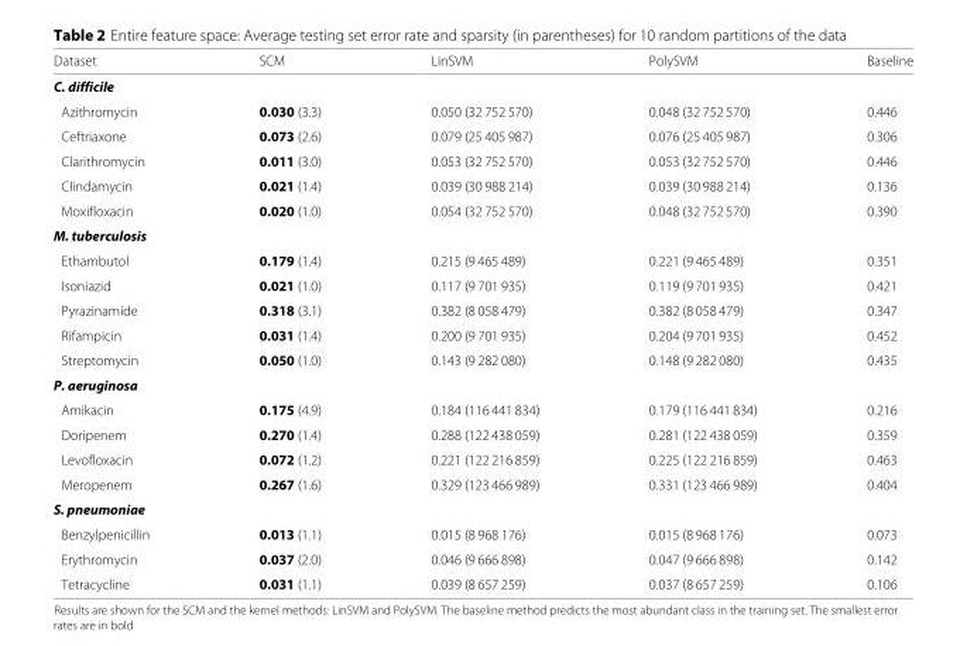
<table><thead><tr><td>Dataset</td><td>SCM</td><td>LinSVM</td><td>PolySVM</td><td>Baseline</td></tr></thead><tbody><tr><td colspan="5">C. difficile</td></tr><tr><td>Azithromycin</td><td>0.030 (3.3)</td><td>0.050 (32 752 570)</td><td>0.048 (32 752 570)</td><td>0.446</td></tr><tr><td>Ceftriaxone</td><td>0.073 (2.6)</td><td>0.079 (25 405 987)</td><td>0.076 (25 405 987)</td><td>0.306</td></tr><tr><td>Clarithromycin</td><td>0.011 (3.0)</td><td>0.053 (32 752 570)</td><td>0.053 (32 752 570)</td><td>0.446</td></tr><tr><td>Clindamycin</td><td>0.021 (1.4)</td><td>0.039 (30 988 214)</td><td>0.039 (30 988 214)</td><td>0.136</td></tr><tr><td>Moxifloxacin</td><td>0.020 (1.0)</td><td>0.054 (32 752 570)</td><td>0.048 (32 752 570)</td><td>0.390</td></tr><tr><td colspan="5">M. tuberculosis</td></tr><tr><td>Ethambutol</td><td>0.179 (1.4)</td><td>0.215 (9 465 489)</td><td>0.221 (9 465 489)</td><td>0.351</td></tr><tr><td>Isoniazid</td><td>0.021 (1.0)</td><td>0.117 (9 701 935)</td><td>0.119 (9 701 935)</td><td>0.421</td></tr><tr><td>Pyrazinamide</td><td>0.318 (3.1)</td><td>0.382 (8 058 479)</td><td>0.382 (8 058 479)</td><td>0.347</td></tr><tr><td>Rifampicin</td><td>0.031 (1.4)</td><td>0.200 (9 701 935)</td><td>0.204 (9 701 935)</td><td>0.452</td></tr><tr><td>Streptomycin</td><td>0.050 (1.0)</td><td>0.143 (9 282 080)</td><td>0.148 (9 282 080)</td><td>0.435</td></tr><tr><td colspan="5">P. aeruginosa</td></tr><tr><td>Amikacin</td><td>0.175 (4.9)</td><td>0.184 (116 441 834)</td><td>0.179 (116 441 834)</td><td>0.216</td></tr><tr><td>Doripenem</td><td>0.270 (1.4)</td><td>0.288 (122 438 059)</td><td>0.281 (122 438 059)</td><td>0.359</td></tr><tr><td>Levofloxacin</td><td>0.072 (1.2)</td><td>0.221 (122 216 859)</td><td>0.225 (122 216 859)</td><td>0.463</td></tr><tr><td>Meropenem</td><td>0.267 (1.6)</td><td>0.329 (123 466 989)</td><td>0.331 (123 466 989)</td><td>0.404</td></tr><tr><td colspan="5">S. pneumoniae</td></tr><tr><td>Benzylpenicillin</td><td>0.013 (1.1)</td><td>0.015 (8 968 176)</td><td>0.015 (8 968 176)</td><td>0.073</td></tr><tr><td>Erythromycin</td><td>0.037 (2.0)</td><td>0.046 (9 666 898)</td><td>0.047 (9 666 898)</td><td>0.142</td></tr><tr><td>Tetracycline</td><td>0.031 (1.1)</td><td>0.039 (8 657 259)</td><td>0.037 (8 657 259)</td><td>0.106</td></tr></tbody></table>